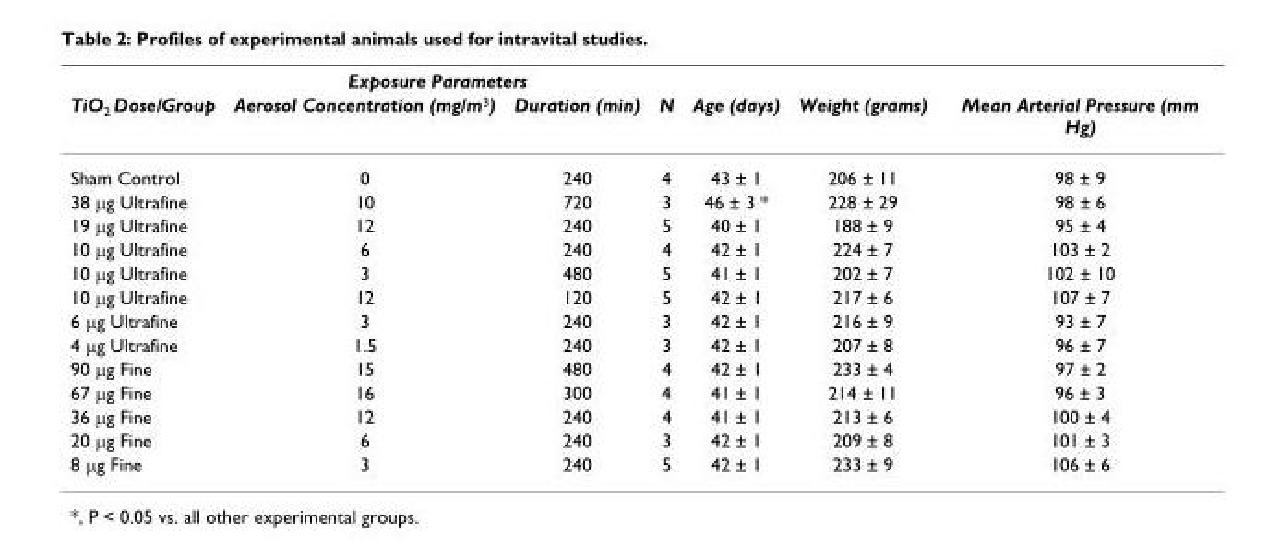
<table><thead><tr><td rowspan="2">TiO<sub>2</sub> Dose/Group</td><td colspan="2">Exposure Parameters</td><td rowspan="2">N</td><td rowspan="2">Age (days)</td><td rowspan="2">Weight (grams)</td><td rowspan="2">Mean Arterial Pressure (mm Hg)</td></tr><tr><td>Aerosol Concentration (mg/m<sup>3</sup>)</td><td>Duration (min)</td></tr></thead><tbody><tr><td>Sham Control</td><td>0</td><td>240</td><td>4</td><td>43 ± 1</td><td>206 ± 11</td><td>98 ± 9</td></tr><tr><td>38 µg Ultrafine</td><td>10</td><td>720</td><td>3</td><td>46 ± 3 *</td><td>228 ± 29</td><td>98 ± 6</td></tr><tr><td>19 µg Ultrafine</td><td>12</td><td>240</td><td>5</td><td>40 ± 1</td><td>188 ± 9</td><td>95 ± 4</td></tr><tr><td>10 µg Ultrafine</td><td>6</td><td>240</td><td>4</td><td>42 ± 1</td><td>224 ± 7</td><td>103 ± 2</td></tr><tr><td>10 µg Ultrafine</td><td>3</td><td>480</td><td>5</td><td>41 ± 1</td><td>202 ± 7</td><td>102 ± 10</td></tr><tr><td>10 µg Ultrafine</td><td>12</td><td>120</td><td>5</td><td>42 ± 1</td><td>217 ± 6</td><td>107 ± 7</td></tr><tr><td>6 µg Ultrafine</td><td>3</td><td>240</td><td>3</td><td>42 ± 1</td><td>216 ± 9</td><td>93 ± 7</td></tr><tr><td>4 µg Ultrafine</td><td>1.5</td><td>240</td><td>3</td><td>42 ± 1</td><td>207 ± 8</td><td>96 ± 7</td></tr><tr><td>90 µg Fine</td><td>15</td><td>480</td><td>4</td><td>42 ± 1</td><td>233 ± 4</td><td>97 ± 2</td></tr><tr><td>67 µg Fine</td><td>16</td><td>300</td><td>4</td><td>41 ± 1</td><td>214 ± 11</td><td>96 ± 3</td></tr><tr><td>36 µg Fine</td><td>12</td><td>240</td><td>4</td><td>41 ± 1</td><td>213 ± 6</td><td>100 ± 4</td></tr><tr><td>20 µg Fine</td><td>6</td><td>240</td><td>3</td><td>42 ± 1</td><td>209 ± 8</td><td>101 ± 3</td></tr><tr><td>8 µg Fine</td><td>3</td><td>240</td><td>5</td><td>42 ± 1</td><td>233 ± 9</td><td>106 ± 6</td></tr></tbody></table>